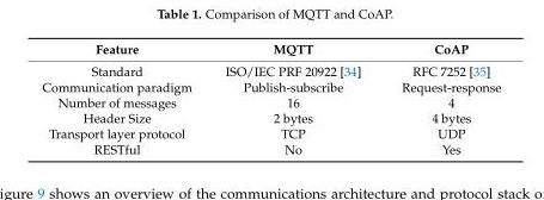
<table><thead><tr><td>Feature</td><td>MQTT</td><td>CoAP</td></tr></thead><tbody><tr><td>Standard</td><td>ISO/IEC PRF 20922 [34]</td><td>RFC 7252 [35]</td></tr><tr><td>Communication paradigm</td><td>Publish-subscribe</td><td>Request-response</td></tr><tr><td>Number of messages</td><td>16</td><td>4</td></tr><tr><td>Header Size</td><td>2 bytes</td><td>4 bytes</td></tr><tr><td>Transport layer protocol</td><td>TCP</td><td>UDP</td></tr><tr><td>RESTful</td><td>No</td><td>Yes</td></tr></tbody></table>